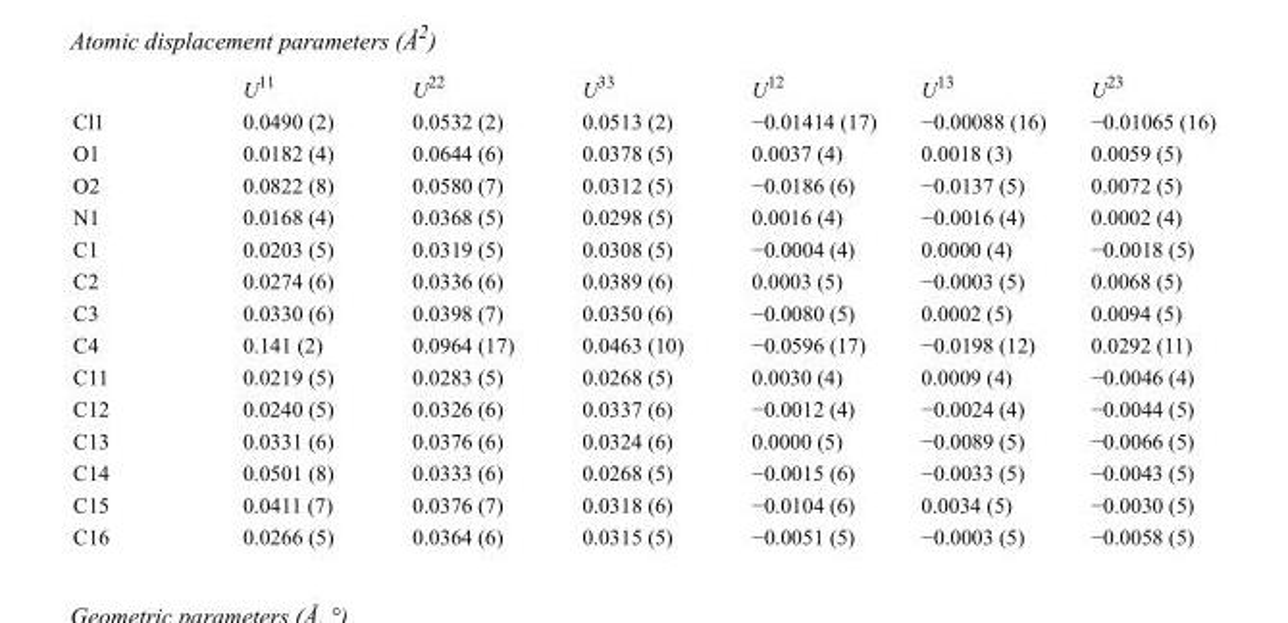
<table><thead><tr><td></td><td>U<sup>11</sup></td><td>U<sup>22</sup></td><td>U<sup>33</sup></td><td>U<sup>12</sup></td><td>U<sup>13</sup></td><td>U<sup>23</sup></td></tr></thead><tbody><tr><td>Cl1</td><td>0.0490 (2)</td><td>0.0532 (2)</td><td>0.0513 (2)</td><td>−0.01414 (17)</td><td>−0.00088 (16)</td><td>−0.01065 (16)</td></tr><tr><td>O1</td><td>0.0182 (4)</td><td>0.0644 (6)</td><td>0.0378 (5)</td><td>0.0037 (4)</td><td>0.0018 (3)</td><td>0.0059 (5)</td></tr><tr><td>O2</td><td>0.0822 (8)</td><td>0.0580 (7)</td><td>0.0312 (5)</td><td>−0.0186 (6)</td><td>−0.0137 (5)</td><td>0.0072 (5)</td></tr><tr><td>N1</td><td>0.0168 (4)</td><td>0.0368 (5)</td><td>0.0298 (5)</td><td>0.0016 (4)</td><td>−0.0016 (4)</td><td>0.0002 (4)</td></tr><tr><td>C1</td><td>0.0203 (5)</td><td>0.0319 (5)</td><td>0.0308 (5)</td><td>−0.0004 (4)</td><td>0.0000 (4)</td><td>−0.0018 (5)</td></tr><tr><td>C2</td><td>0.0274 (6)</td><td>0.0336 (6)</td><td>0.0389 (6)</td><td>0.0003 (5)</td><td>−0.0003 (5)</td><td>0.0068 (5)</td></tr><tr><td>C3</td><td>0.0330 (6)</td><td>0.0398 (7)</td><td>0.0350 (6)</td><td>−0.0080 (5)</td><td>0.0002 (5)</td><td>0.0094 (5)</td></tr><tr><td>C4</td><td>0.141 (2)</td><td>0.0964 (17)</td><td>0.0463 (10)</td><td>−0.0596 (17)</td><td>−0.0198 (12)</td><td>0.0292 (11)</td></tr><tr><td>C11</td><td>0.0219 (5)</td><td>0.0283 (5)</td><td>0.0268 (5)</td><td>0.0030 (4)</td><td>0.0009 (4)</td><td>−0.0046 (4)</td></tr><tr><td>C12</td><td>0.0240 (5)</td><td>0.0326 (6)</td><td>0.0337 (6)</td><td>−0.0012 (4)</td><td>−0.0024 (4)</td><td>−0.0044 (5)</td></tr><tr><td>C13</td><td>0.0331 (6)</td><td>0.0376 (6)</td><td>0.0324 (6)</td><td>0.0000 (5)</td><td>−0.0089 (5)</td><td>−0.0066 (5)</td></tr><tr><td>C14</td><td>0.0501 (8)</td><td>0.0333 (6)</td><td>0.0268 (5)</td><td>−0.0015 (6)</td><td>−0.0033 (5)</td><td>−0.0043 (5)</td></tr><tr><td>C15</td><td>0.0411 (7)</td><td>0.0376 (7)</td><td>0.0318 (6)</td><td>−0.0104 (6)</td><td>0.0034 (5)</td><td>−0.0030 (5)</td></tr><tr><td>C16</td><td>0.0266 (5)</td><td>0.0364 (6)</td><td>0.0315 (5)</td><td>−0.0051 (5)</td><td>−0.0003 (5)</td><td>−0.0058 (5)</td></tr></tbody></table>